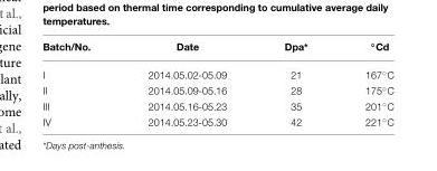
<table><thead><tr><td>Batch/No.</td><td>Date</td><td>Dpa*</td><td>◦Cd</td></tr></thead><tbody><tr><td>I</td><td>2014.05.02-05.09</td><td>21</td><td>167◦C</td></tr><tr><td>II</td><td>2014.05.09-05.16</td><td>28</td><td>175◦C</td></tr><tr><td>III</td><td>2014.05.16-05.23</td><td>35</td><td>201◦C</td></tr><tr><td>IV</td><td>2014.05.23-05.30</td><td>42</td><td>221◦C</td></tr></tbody></table>